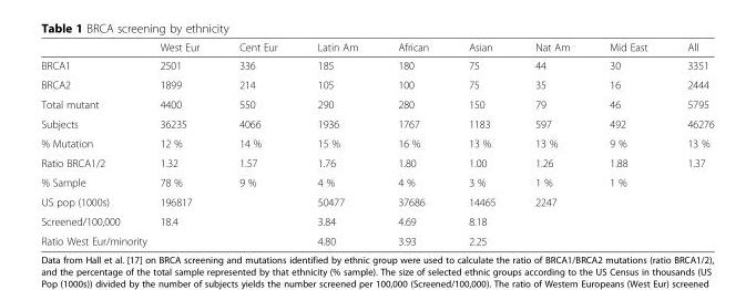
<table><thead><tr><td></td><td>West Eur</td><td>Cent Eur</td><td>Latin Am</td><td>African</td><td>Asian</td><td>Nat Am</td><td>Mid East</td><td>All</td></tr></thead><tbody><tr><td>BRCA1</td><td>2501</td><td>336</td><td>185</td><td>180</td><td>75</td><td>44</td><td>30</td><td>3351</td></tr><tr><td>BRCA2</td><td>1899</td><td>214</td><td>105</td><td>100</td><td>75</td><td>35</td><td>16</td><td>2444</td></tr><tr><td>Total mutant</td><td>4400</td><td>550</td><td>290</td><td>280</td><td>150</td><td>79</td><td>46</td><td>5795</td></tr><tr><td>Subjects</td><td>36235</td><td>4066</td><td>1936</td><td>1767</td><td>1183</td><td>597</td><td>492</td><td>46276</td></tr><tr><td>% Mutation</td><td>12 %</td><td>14 %</td><td>15 %</td><td>16 %</td><td>13 %</td><td>13 %</td><td>9 %</td><td>13 %</td></tr><tr><td>Ratio BRCA1/2</td><td>1.32</td><td>1.57</td><td>1.76</td><td>1.80</td><td>1.00</td><td>1.26</td><td>1.88</td><td>1.37</td></tr><tr><td>% Sample</td><td>78 %</td><td>9 %</td><td>4 %</td><td>4 %</td><td>3 %</td><td>1 %</td><td>1 %</td><td></td></tr><tr><td>US pop (1000s)</td><td>196817</td><td></td><td>50477</td><td>37686</td><td>14465</td><td>2247</td><td></td><td></td></tr><tr><td>Screened/100,000</td><td>18.4</td><td></td><td>3.84</td><td>4.69</td><td>8.18</td><td></td><td></td><td></td></tr><tr><td colspan="2">Ratio West Eur/minority</td><td></td><td>4.80</td><td>3.93</td><td>2.25</td><td></td><td></td><td></td></tr></tbody></table>